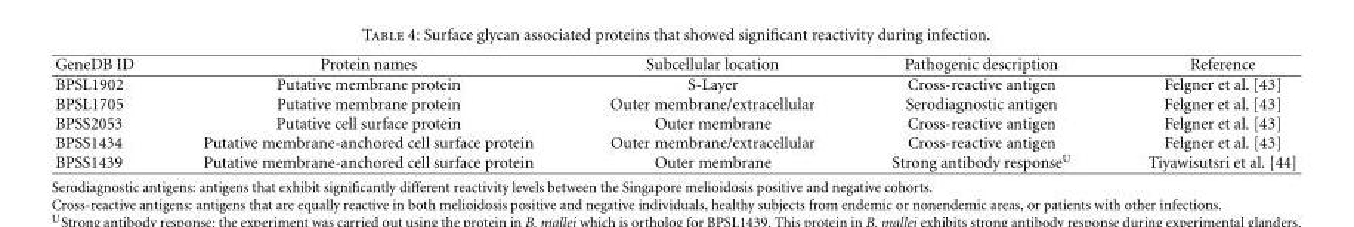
<table><thead><tr><td>GeneDB ID</td><td>Protein names</td><td>Subcellular location</td><td>Pathogenic description</td><td>Reference</td></tr></thead><tbody><tr><td>BPSL1902</td><td>Putative membrane protein</td><td>S-Layer</td><td>Cross-reactive antigen</td><td>Felgner et al. [43]</td></tr><tr><td>BPSL1705</td><td>Putative membrane protein</td><td>Outer membrane/extracellular</td><td>Serodiagnostic antigen</td><td>Felgner et al. [43]</td></tr><tr><td>BPSS2053</td><td>Putative cell surface protein</td><td>Outer membrane</td><td>Cross-reactive antigen</td><td>Felgner et al. [43]</td></tr><tr><td>BPSS1434</td><td>Putative membrane-anchored cell surface protein</td><td>Outer membrane/extracellular</td><td>Cross-reactive antigen</td><td>Felgner et al. [43]</td></tr><tr><td>BPSS1439</td><td>Putative membrane-anchored cell surface protein</td><td>Outer membrane</td><td>Strong antibody response<sup>U</sup></td><td>Tiyawisutsri et al. [44]</td></tr></tbody></table>